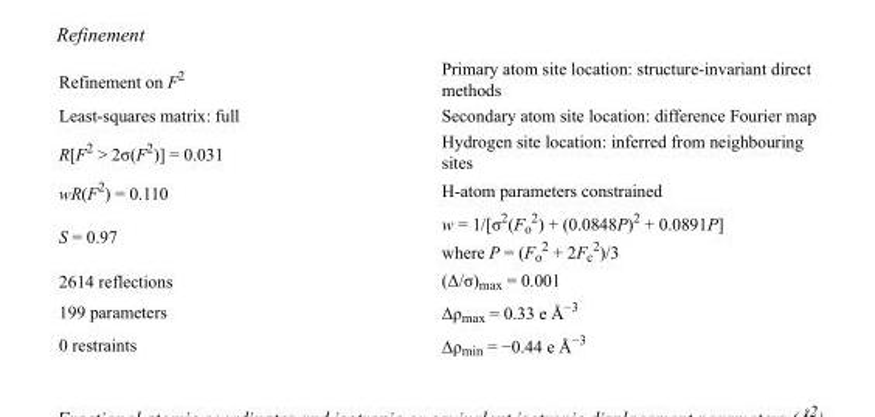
<table><tbody><tr><td>Refinement on F<sup>2</sup></td><td>Primary atom site location: structure-invariant direct methods</td></tr><tr><td>Least-squares matrix: full</td><td>Secondary atom site location: difference Fourier map</td></tr><tr><td>R[F<sup>2</sup> &gt; 2σ(F<sup>2</sup>)] = 0.031</td><td>Hydrogen site location: inferred from neighbouring sites</td></tr><tr><td>wR(F<sup>2</sup>) = 0.110</td><td>H-atom parameters constrained</td></tr><tr><td>S = 0.97</td><td>w = 1/[σ<sup>2</sup>(F<sub>o</sub> <sup>2</sup>) + (0.0848P)<sup>2</sup> + 0.0891P] where P = (F<sub>o</sub> <sup>2</sup> + 2F<sub>c</sub> <sup>2</sup>)/3</td></tr><tr><td>2614 reflections</td><td>(Δ/σ)<sub>max</sub> = 0.001</td></tr><tr><td>199 parameters</td><td>Δρ<sub>max</sub> = 0.33 e Å<sup>−3</sup></td></tr><tr><td>0 restraints</td><td>Δρ<sub>min</sub> = −0.44 e Å<sup>−3</sup></td></tr></tbody></table>